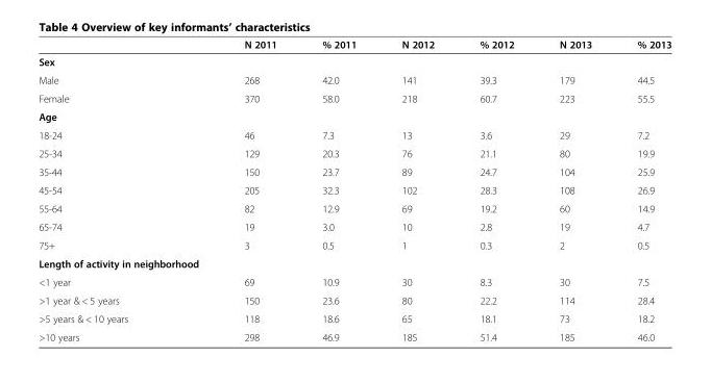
<table><thead><tr><td></td><td>N 2011</td><td>% 2011</td><td>N 2012</td><td>% 2012</td><td>N 2013</td><td>% 2013</td></tr></thead><tbody><tr><td colspan="7">Sex</td></tr><tr><td>Male</td><td>268</td><td>42.0</td><td>141</td><td>39.3</td><td>179</td><td>44.5</td></tr><tr><td>Female</td><td>370</td><td>58.0</td><td>218</td><td>60.7</td><td>223</td><td>55.5</td></tr><tr><td colspan="7">Age</td></tr><tr><td>18-24</td><td>46</td><td>7.3</td><td>13</td><td>3.6</td><td>29</td><td>7.2</td></tr><tr><td>25-34</td><td>129</td><td>20.3</td><td>76</td><td>21.1</td><td>80</td><td>19.9</td></tr><tr><td>35-44</td><td>150</td><td>23.7</td><td>89</td><td>24.7</td><td>104</td><td>25.9</td></tr><tr><td>45-54</td><td>205</td><td>32.3</td><td>102</td><td>28.3</td><td>108</td><td>26.9</td></tr><tr><td>55-64</td><td>82</td><td>12.9</td><td>69</td><td>19.2</td><td>60</td><td>14.9</td></tr><tr><td>65-74</td><td>19</td><td>3.0</td><td>10</td><td>2.8</td><td>19</td><td>4.7</td></tr><tr><td>75+</td><td>3</td><td>0.5</td><td>1</td><td>0.3</td><td>2</td><td>0.5</td></tr><tr><td colspan="7">Length of activity in neighborhood</td></tr><tr><td>&lt;1 year</td><td>69</td><td>10.9</td><td>30</td><td>8.3</td><td>30</td><td>7.5</td></tr><tr><td>&gt;1 year &amp; &lt; 5 years</td><td>150</td><td>23.6</td><td>80</td><td>22.2</td><td>114</td><td>28.4</td></tr><tr><td>&gt;5 years &amp; &lt; 10 years</td><td>118</td><td>18.6</td><td>65</td><td>18.1</td><td>73</td><td>18.2</td></tr><tr><td>&gt;10 years</td><td>298</td><td>46.9</td><td>185</td><td>51.4</td><td>185</td><td>46.0</td></tr></tbody></table>